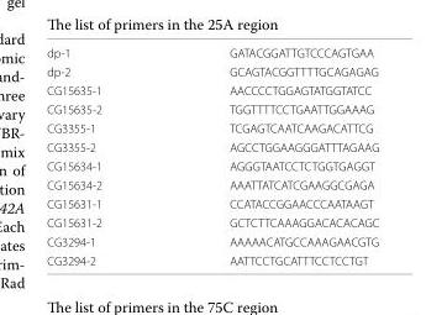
<table><tbody><tr><td>dp-1</td><td>GATACGGATTGTCCCAGTGAA</td></tr><tr><td>dp-2</td><td>GCAGTACGGTTTTGCAGAGAG</td></tr><tr><td>CG15635-1</td><td>AACCCCTGGAGTATGGTATCC</td></tr><tr><td>CG15635-2</td><td>TGGTTTTCCTGAATTGGAAAG</td></tr><tr><td>CG3355-1</td><td>TCGAGTCAATCAAGACATTCG</td></tr><tr><td>CG3355-2</td><td>AGCCTGGAAGGGATTTAGAAG</td></tr><tr><td>CG15634-1</td><td>AGGGTAATCCTCTGGTGAGGT</td></tr><tr><td>CG15634-2</td><td>AAATTATCATCGAAGGCGAGA</td></tr><tr><td>CG15631-1</td><td>CCATACCGGAACCCAATAAGT</td></tr><tr><td>CG15631-2</td><td>GCTCTTCAAAGGACACACAGC</td></tr><tr><td>CG3294-1</td><td>AAAAACATGCCAAAGAACGTG</td></tr><tr><td>CG3294-2</td><td>AATTCCTGCATTTCCTCCTGT</td></tr></tbody></table>